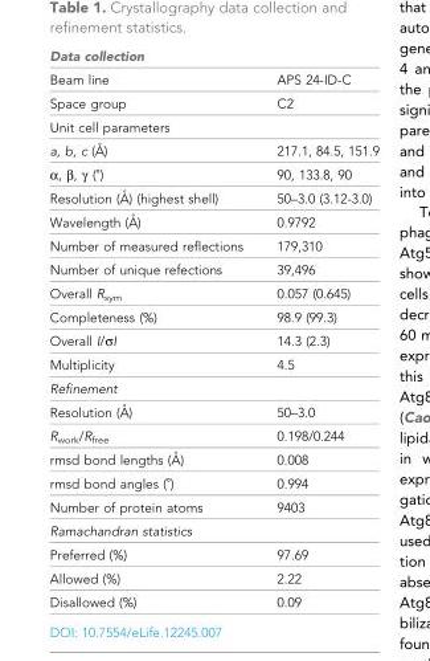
<table><thead><tr><td colspan="2">Data collection</td></tr><tr><td>Beam line</td><td>APS 24-ID-C</td></tr></thead><tbody><tr><td>Space group</td><td>C2</td></tr><tr><td colspan="2">Unit cell parameters</td></tr><tr><td>a, b, c (A˚ )</td><td>217.1, 84.5, 151.9</td></tr><tr><td>α, β, γ (˚)</td><td>90, 133.8, 90</td></tr><tr><td>Resolution (A˚ ) (highest shell)</td><td>50–3.0 (3.12-3.0)</td></tr><tr><td>Wavelength (A˚ )</td><td>0.9792</td></tr><tr><td>Number of measured reflections</td><td>179,310</td></tr><tr><td>Number of unique refections</td><td>39,496</td></tr><tr><td>Overall R<sub>sym</sub></td><td>0.057 (0.645)</td></tr><tr><td>Completeness (%)</td><td>98.9 (99.3)</td></tr><tr><td>Overall I/σI</td><td>14.3 (2.3)</td></tr><tr><td>Multiplicity</td><td>4.5</td></tr><tr><td colspan="2">Refinement</td></tr><tr><td>Resolution (A˚ )</td><td>50–3.0</td></tr><tr><td>R<sub>work</sub>/R<sub>free</sub></td><td>0.198/0.244</td></tr><tr><td>rmsd bond lengths (A˚ )</td><td>0.008</td></tr><tr><td>rmsd bond angles (˚)</td><td>0.994</td></tr><tr><td>Number of protein atoms</td><td>9403</td></tr><tr><td colspan="2">Ramachandran statistics</td></tr><tr><td>Preferred (%)</td><td>97.69</td></tr><tr><td>Allowed (%)</td><td>2.22</td></tr><tr><td>Disallowed (%)</td><td>0.09</td></tr></tbody></table>